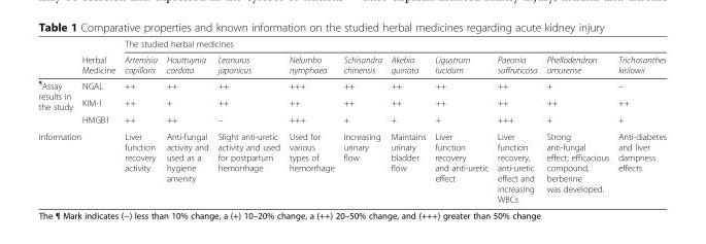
<table><thead><tr><td rowspan="2"></td><td rowspan="2">Herbal Medicine</td><td colspan="10">The studied herbal medicines</td></tr><tr><td>Artemisia capillaris</td><td>Houttuynia cordata</td><td>Leonurus japonicus</td><td>Nelumbo nymphaea</td><td>Schisandra chinensis</td><td>Akebia quinata</td><td>Ligustrum lucidum</td><td>Paeonia suffruticosa</td><td>Phellodendron amurense</td><td>Trichosanthes kirilowii</td></tr></thead><tbody><tr><td rowspan="3"><sup>¶</sup>Assay results in the study</td><td>NGAL</td><td>++</td><td>++</td><td>++</td><td>+++</td><td>++</td><td>++</td><td>++</td><td>++</td><td>+</td><td>–</td></tr><tr><td>KIM-1</td><td>++</td><td>+</td><td>++</td><td>++</td><td>++</td><td>++</td><td>++</td><td>++</td><td>++</td><td>++</td></tr><tr><td>HMGB1</td><td>++</td><td>++</td><td>–</td><td>+++</td><td>+</td><td>+</td><td>+</td><td>+++</td><td>+</td><td>+</td></tr><tr><td colspan="2">Information</td><td>Liver function recovery activity</td><td>Anti-fungal activity and used as a hygiene amenity</td><td>Slight anti-uretic activity and used for postpartum hemorrhage</td><td>Used for various types of hemorrhage</td><td>Increasing urinary flow</td><td>Maintains urinary bladder flow</td><td>Liver function recovery and anti-uretic effect</td><td>Liver function recovery, anti-uretic effect and increasing WBCs</td><td>Strong anti-fungal effect; efficacious compound, berberine was developed.</td><td>Anti-diabetes and liver dampness effects</td></tr></tbody></table>